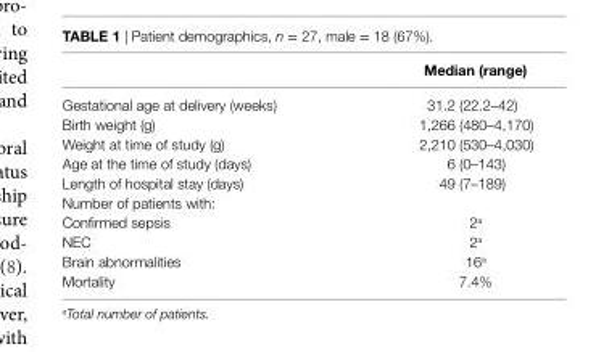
<table><thead><tr><td></td><td>Median (range)</td></tr></thead><tbody><tr><td>Gestational age at delivery (weeks)</td><td>31.2 (22.2–42)</td></tr><tr><td>Birth weight (g)</td><td>1,266 (480–4,170)</td></tr><tr><td>Weight at time of study (g)</td><td>2,210 (530–4,030)</td></tr><tr><td>Age at the time of study (days)</td><td>6 (0–143)</td></tr><tr><td>Length of hospital stay (days)</td><td>49 (7–189)</td></tr><tr><td colspan="2">Number of patients with:</td></tr><tr><td>Confirmed sepsis</td><td>2<sup>a</sup></td></tr><tr><td>NEC</td><td>2<sup>a</sup></td></tr><tr><td>Brain abnormalities</td><td>16<sup>a</sup></td></tr><tr><td>Mortality</td><td>7.4%</td></tr></tbody></table>